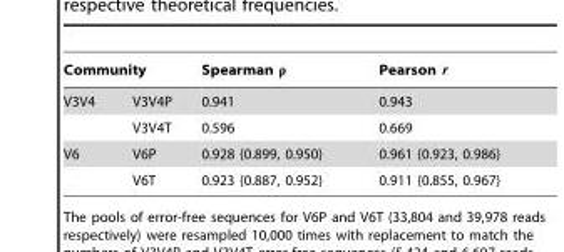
<table><thead><tr><td colspan="2">Community</td><td rowspan="2">Spearman ρ 0.941</td><td rowspan="2">Pearson r 0.943</td></tr><tr><td>V3V4</td><td>V3V4P</td></tr></thead><tbody><tr><td></td><td>V3V4T</td><td>0.596</td><td>0.669</td></tr><tr><td rowspan="2">V6</td><td>V6P</td><td>0.928 {0.899, 0.950}</td><td>0.961 {0.923, 0.986}</td></tr><tr><td>V6T</td><td>0.923 {0.887, 0.952}</td><td>0.911 {0.855, 0.967}</td></tr></tbody></table>